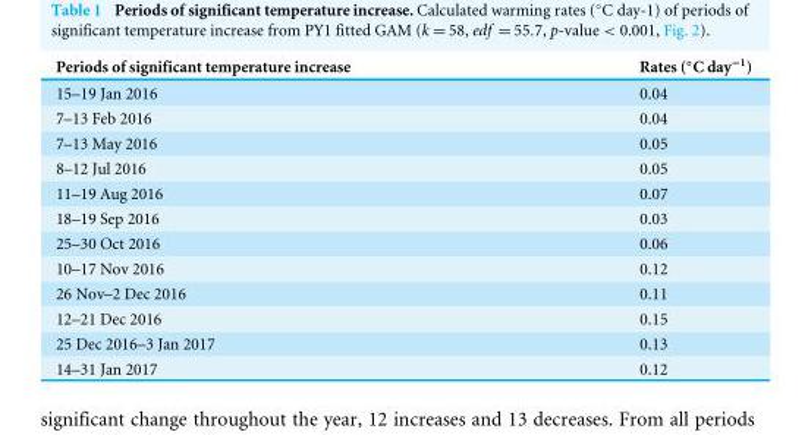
<table><thead><tr><td>Periods of significant temperature increase</td><td>Rates (◦C day−1)</td></tr></thead><tbody><tr><td>15–19 Jan 2016</td><td>0.04</td></tr><tr><td>7–13 Feb 2016</td><td>0.04</td></tr><tr><td>7–13 May 2016</td><td>0.05</td></tr><tr><td>8–12 Jul 2016</td><td>0.05</td></tr><tr><td>11–19 Aug 2016</td><td>0.07</td></tr><tr><td>18–19 Sep 2016</td><td>0.03</td></tr><tr><td>25–30 Oct 2016</td><td>0.06</td></tr><tr><td>10–17 Nov 2016</td><td>0.12</td></tr><tr><td>26 Nov–2 Dec 2016</td><td>0.11</td></tr><tr><td>12–21 Dec 2016</td><td>0.15</td></tr><tr><td>25 Dec 2016–3 Jan 2017</td><td>0.13</td></tr><tr><td>14–31 Jan 2017</td><td>0.12</td></tr></tbody></table>